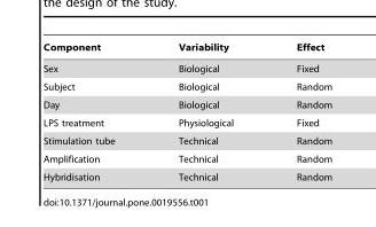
<table><thead><tr><td>Component</td><td>Variability</td><td>Effect</td></tr></thead><tbody><tr><td>Sex</td><td>Biological</td><td>Fixed</td></tr><tr><td>Subject</td><td>Biological</td><td>Random</td></tr><tr><td>Day</td><td>Biological</td><td>Random</td></tr><tr><td>LPS treatment</td><td>Physiological</td><td>Fixed</td></tr><tr><td>Stimulation tube</td><td>Technical</td><td>Random</td></tr><tr><td>Amplification</td><td>Technical</td><td>Random</td></tr><tr><td>Hybridisation</td><td>Technical</td><td>Random</td></tr></tbody></table>